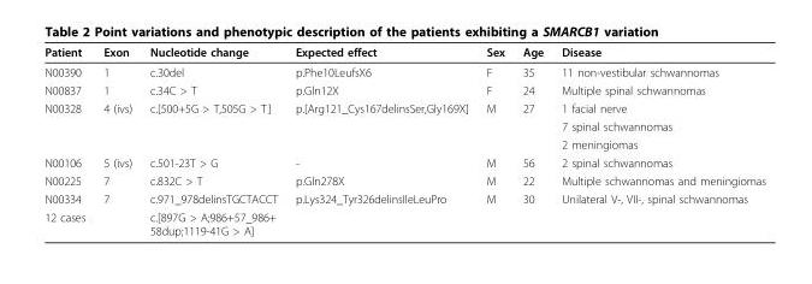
<table><thead><tr><td>Patient</td><td>Exon</td><td>Nucleotide change</td><td>Expected effect</td><td>Sex</td><td>Age</td><td>Disease</td></tr></thead><tbody><tr><td>N00390</td><td>1</td><td>c.30del</td><td>p.Phe10LeufsX6</td><td>F</td><td>35</td><td>11 non-vestibular schwannomas</td></tr><tr><td>N00837</td><td>1</td><td>c.34C &gt; T</td><td>p.Gln12X</td><td>F</td><td>24</td><td>Multiple spinal schwannomas</td></tr><tr><td rowspan="3">N00328</td><td>4 (ivs)</td><td>c.[500+5G &gt; T,505G &gt; T]</td><td>p.[Arg121_Cys167delinsSer,Gly169X]</td><td>M</td><td>27</td><td>1 facial nerve</td></tr><tr><td></td><td></td><td></td><td></td><td></td><td>7 spinal schwannomas</td></tr><tr><td></td><td></td><td></td><td></td><td></td><td>2 meningiomas</td></tr><tr><td>N00106</td><td>5 (ivs)</td><td>c.501-23T &gt; G</td><td>-</td><td>M</td><td>56</td><td>2 spinal schwannomas</td></tr><tr><td>N00225</td><td>7</td><td>c.832C &gt; T</td><td>p.Gln278X</td><td>M</td><td>22</td><td>Multiple schwannomas and meningiomas</td></tr><tr><td>N00334</td><td>7</td><td>c.971_978delinsTGCTACCT</td><td>p.Lys324_Tyr326delinsIleLeuPro</td><td>M</td><td>30</td><td>Unilateral V-, VII-, spinal schwannomas</td></tr><tr><td>12 cases</td><td></td><td>c.[897G &gt; A;986+57_986+ 58dup;1119-41G &gt; A]</td><td></td><td></td><td></td><td></td></tr></tbody></table>